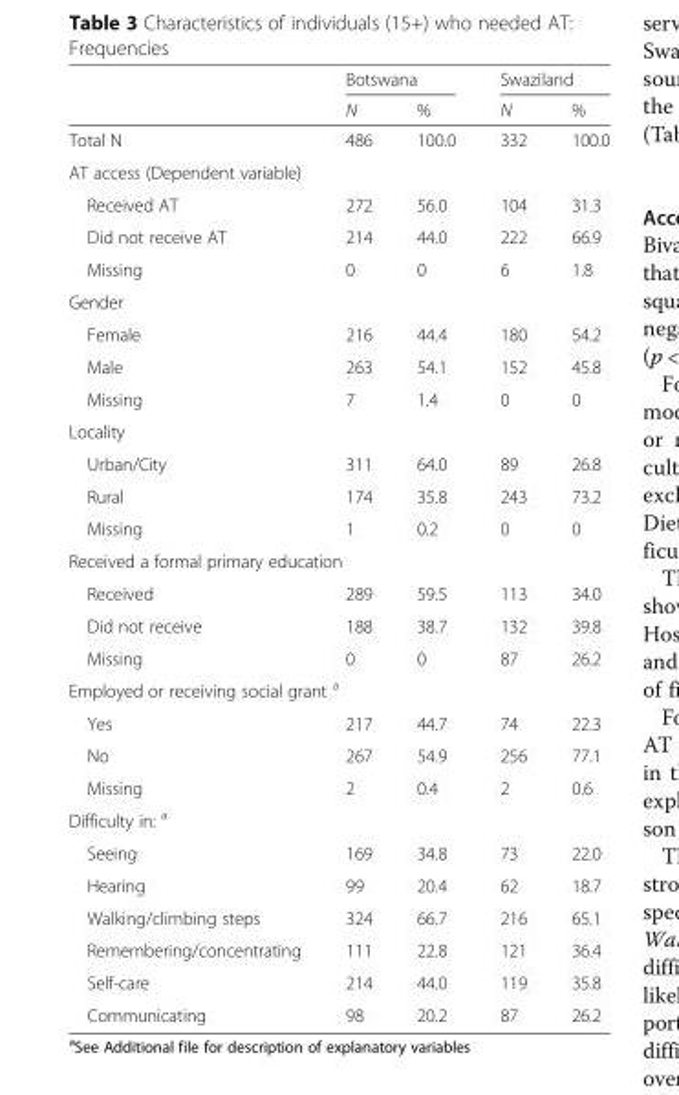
<table><thead><tr><td rowspan="2"></td><td colspan="2">Botswana</td><td colspan="2">Swaziland</td></tr><tr><td>N</td><td>%</td><td>N</td><td>%</td></tr></thead><tbody><tr><td>Total N</td><td>486</td><td>100.0</td><td>332</td><td>100.0</td></tr><tr><td colspan="5">AT access (Dependent variable)</td></tr><tr><td>Received AT</td><td>272</td><td>56.0</td><td>104</td><td>31.3</td></tr><tr><td>Did not receive AT</td><td>214</td><td>44.0</td><td>222</td><td>66.9</td></tr><tr><td>Missing</td><td>0</td><td>0</td><td>6</td><td>1.8</td></tr><tr><td colspan="5">Gender</td></tr><tr><td>Female</td><td>216</td><td>44.4</td><td>180</td><td>54.2</td></tr><tr><td>Male</td><td>263</td><td>54.1</td><td>152</td><td>45.8</td></tr><tr><td>Missing</td><td>7</td><td>1.4</td><td>0</td><td>0</td></tr><tr><td colspan="5">Locality</td></tr><tr><td>Urban/City</td><td>311</td><td>64.0</td><td>89</td><td>26.8</td></tr><tr><td>Rural</td><td>174</td><td>35.8</td><td>243</td><td>73.2</td></tr><tr><td>Missing</td><td>1</td><td>0.2</td><td>0</td><td>0</td></tr><tr><td colspan="5">Received a formal primary education</td></tr><tr><td>Received</td><td>289</td><td>59.5</td><td>113</td><td>34.0</td></tr><tr><td>Did not receive</td><td>188</td><td>38.7</td><td>132</td><td>39.8</td></tr><tr><td>Missing</td><td>0</td><td>0</td><td>87</td><td>26.2</td></tr><tr><td colspan="5">Employed or receiving social grant <sup>a</sup></td></tr><tr><td>Yes</td><td>217</td><td>44.7</td><td>74</td><td>22.3</td></tr><tr><td>No</td><td>267</td><td>54.9</td><td>256</td><td>77.1</td></tr><tr><td>Missing</td><td>2</td><td>0.4</td><td>2</td><td>0.6</td></tr><tr><td colspan="5">Difficulty in: <sup>a</sup></td></tr><tr><td>Seeing</td><td>169</td><td>34.8</td><td>73</td><td>22.0</td></tr><tr><td>Hearing</td><td>99</td><td>20.4</td><td>62</td><td>18.7</td></tr><tr><td>Walking/climbing steps</td><td>324</td><td>66.7</td><td>216</td><td>65.1</td></tr><tr><td>Remembering/concentrating</td><td>111</td><td>22.8</td><td>121</td><td>36.4</td></tr><tr><td>Self-care</td><td>214</td><td>44.0</td><td>119</td><td>35.8</td></tr><tr><td>Communicating</td><td>98</td><td>20.2</td><td>87</td><td>26.2</td></tr></tbody></table>